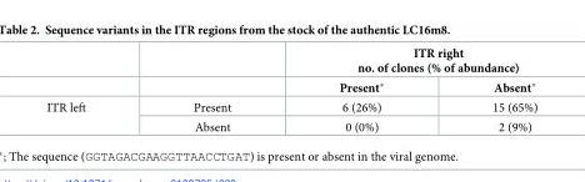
<table><thead><tr><td rowspan="2"></td><td rowspan="2"></td><td colspan="2">ITR right no. of clones (% of abundance)</td></tr><tr><td>Present*</td><td>Absent*</td></tr></thead><tbody><tr><td rowspan="2">ITR left</td><td>Present</td><td>6 (26%)</td><td>15 (65%)</td></tr><tr><td>Absent</td><td>0 (0%)</td><td>2 (9%)</td></tr></tbody></table>